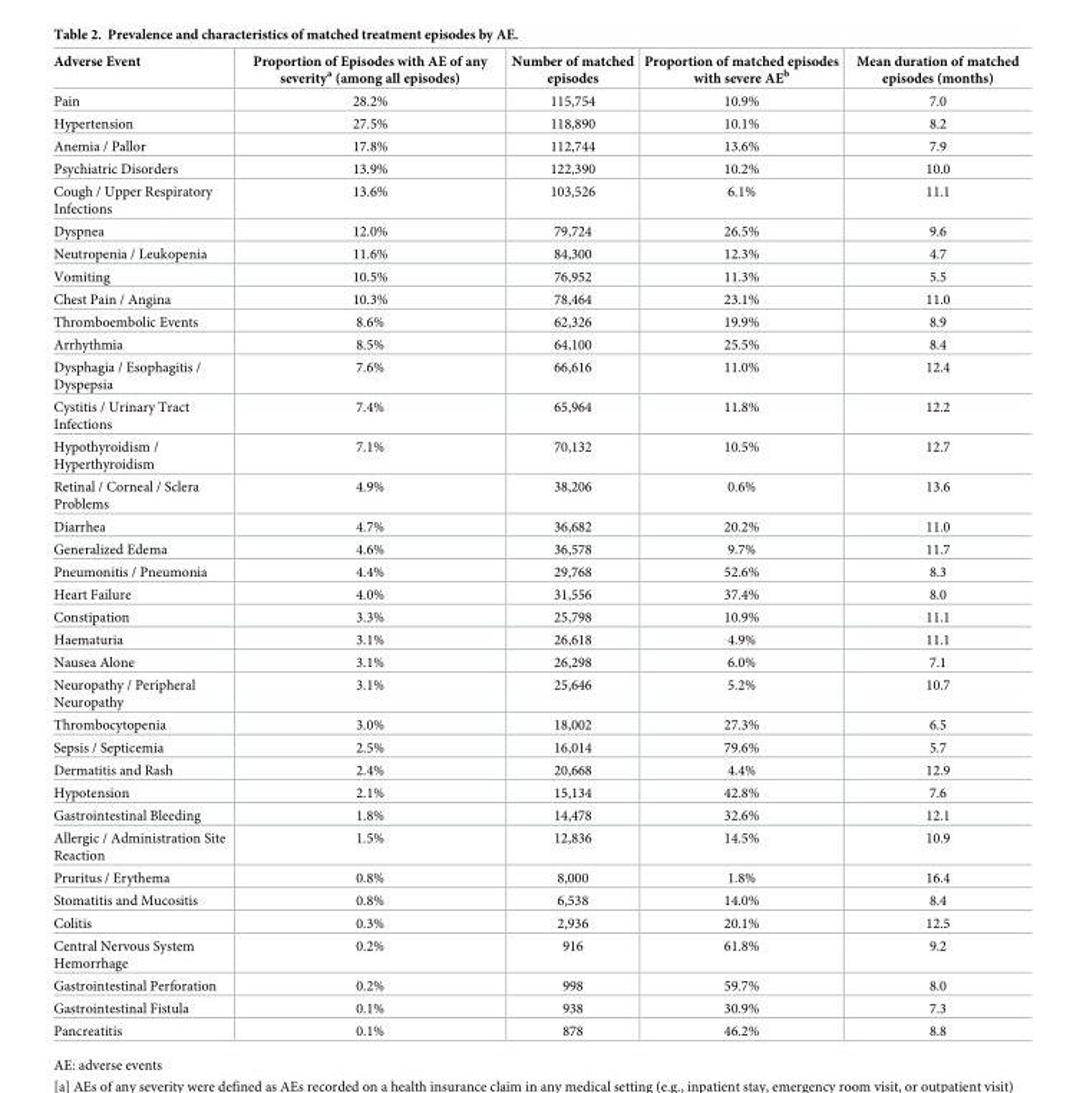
<table><thead><tr><td>Adverse Event</td><td>Proportion of Episodes with AE of any severity<sup>a</sup> (among all episodes)</td><td>Number of matched episodes</td><td>Proportion of matched episodes with severe AE<sup>b</sup></td><td>Mean duration of matched episodes (months)</td></tr></thead><tbody><tr><td>Pain</td><td>28.2%</td><td>115,754</td><td>10.9%</td><td>7.0</td></tr><tr><td>Hypertension</td><td>27.5%</td><td>118,890</td><td>10.1%</td><td>8.2</td></tr><tr><td>Anemia / Pallor</td><td>17.8%</td><td>112,744</td><td>13.6%</td><td>7.9</td></tr><tr><td>Psychiatric Disorders</td><td>13.9%</td><td>122,390</td><td>10.2%</td><td>10.0</td></tr><tr><td>Cough / Upper Respiratory Infections</td><td>13.6%</td><td>103,526</td><td>6.1%</td><td>11.1</td></tr><tr><td>Dyspnea</td><td>12.0%</td><td>79,724</td><td>26.5%</td><td>9.6</td></tr><tr><td>Neutropenia / Leukopenia</td><td>11.6%</td><td>84,300</td><td>12.3%</td><td>4.7</td></tr><tr><td>Vomiting</td><td>10.5%</td><td>76,952</td><td>11.3%</td><td>5.5</td></tr><tr><td>Chest Pain / Angina</td><td>10.3%</td><td>78,464</td><td>23.1%</td><td>11.0</td></tr><tr><td>Thromboembolic Events</td><td>8.6%</td><td>62,326</td><td>19.9%</td><td>8.9</td></tr><tr><td>Arrhythmia</td><td>8.5%</td><td>64,100</td><td>25.5%</td><td>8.4</td></tr><tr><td>Dysphagia / Esophagitis / Dyspepsia</td><td>7.6%</td><td>66,616</td><td>11.0%</td><td>12.4</td></tr><tr><td>Cystitis / Urinary Tract Infections</td><td>7.4%</td><td>65,964</td><td>11.8%</td><td>12.2</td></tr><tr><td>Hypothyroidism / Hyperthyroidism</td><td>7.1%</td><td>70,132</td><td>10.5%</td><td>12.7</td></tr><tr><td>Retinal / Corneal / Sclera Problems</td><td>4.9%</td><td>38,206</td><td>0.6%</td><td>13.6</td></tr><tr><td>Diarrhea</td><td>4.7%</td><td>36,682</td><td>20.2%</td><td>11.0</td></tr><tr><td>Generalized Edema</td><td>4.6%</td><td>36,578</td><td>9.7%</td><td>11.7</td></tr><tr><td>Pneumonitis / Pneumonia</td><td>4.4%</td><td>29,768</td><td>52.6%</td><td>8.3</td></tr><tr><td>Heart Failure</td><td>4.0%</td><td>31,556</td><td>37.4%</td><td>8.0</td></tr><tr><td>Constipation</td><td>3.3%</td><td>25,798</td><td>10.9%</td><td>11.1</td></tr><tr><td>Haematuria</td><td>3.1%</td><td>26,618</td><td>4.9%</td><td>11.1</td></tr><tr><td>Nausea Alone</td><td>3.1%</td><td>26,298</td><td>6.0%</td><td>7.1</td></tr><tr><td>Neuropathy / Peripheral Neuropathy</td><td>3.1%</td><td>25,646</td><td>5.2%</td><td>10.7</td></tr><tr><td>Thrombocytopenia</td><td>3.0%</td><td>18,002</td><td>27.3%</td><td>6.5</td></tr><tr><td>Sepsis / Septicemia</td><td>2.5%</td><td>16,014</td><td>79.6%</td><td>5.7</td></tr><tr><td>Dermatitis and Rash</td><td>2.4%</td><td>20,668</td><td>4.4%</td><td>12.9</td></tr><tr><td>Hypotension</td><td>2.1%</td><td>15,134</td><td>42.8%</td><td>7.6</td></tr><tr><td>Gastrointestinal Bleeding</td><td>1.8%</td><td>14,478</td><td>32.6%</td><td>12.1</td></tr><tr><td>Allergic / Administration Site Reaction</td><td>1.5%</td><td>12,836</td><td>14.5%</td><td>10.9</td></tr><tr><td>Pruritus / Erythema</td><td>0.8%</td><td>8,000</td><td>1.8%</td><td>16.4</td></tr><tr><td>Stomatitis and Mucositis</td><td>0.8%</td><td>6,538</td><td>14.0%</td><td>8.4</td></tr><tr><td>Colitis</td><td>0.3%</td><td>2,936</td><td>20.1%</td><td>12.5</td></tr><tr><td>Central Nervous System Hemorrhage</td><td>0.2%</td><td>916</td><td>61.8%</td><td>9.2</td></tr><tr><td>Gastrointestinal Perforation</td><td>0.2%</td><td>998</td><td>59.7%</td><td>8.0</td></tr><tr><td>Gastrointestinal Fistula</td><td>0.1%</td><td>938</td><td>30.9%</td><td>7.3</td></tr><tr><td>Pancreatitis</td><td>0.1%</td><td>878</td><td>46.2%</td><td>8.8</td></tr></tbody></table>